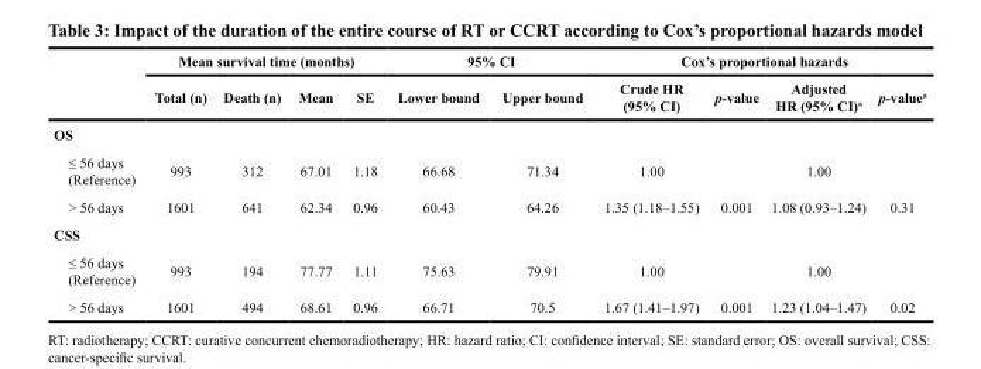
<table><thead><tr><td rowspan="2"></td><td colspan="4">Mean survival time (months)</td><td colspan="2">95% CI</td><td colspan="4">Cox’s proportional hazards</td></tr><tr><td>Total (n)</td><td>Death (n)</td><td>Mean</td><td>SE</td><td>Lower bound</td><td>Upper bound</td><td>Crude HR (95% CI)</td><td>p-value</td><td>Adjusted HR (95% CI)<sup>a</sup></td><td>p-value<sup>a</sup></td></tr></thead><tbody><tr><td colspan="11">OS</td></tr><tr><td>≤ 56 days (Reference)</td><td>993</td><td>312</td><td>67.01</td><td>1.18</td><td>66.68</td><td>71.34</td><td>1.00</td><td></td><td>1.00</td><td></td></tr><tr><td>&gt; 56 days</td><td>1601</td><td>641</td><td>62.34</td><td>0.96</td><td>60.43</td><td>64.26</td><td>1.35 (1.18–1.55)</td><td>0.001</td><td>1.08 (0.93–1.24)</td><td>0.31</td></tr><tr><td colspan="11">CSS</td></tr><tr><td>≤ 56 days (Reference)</td><td>993</td><td>194</td><td>77.77</td><td>1.11</td><td>75.63</td><td>79.91</td><td>1.00</td><td></td><td>1.00</td><td></td></tr><tr><td>&gt; 56 days</td><td>1601</td><td>494</td><td>68.61</td><td>0.96</td><td>66.71</td><td>70.5</td><td>1.67 (1.41–1.97)</td><td>0.001</td><td>1.23 (1.04–1.47)</td><td>0.02</td></tr></tbody></table>